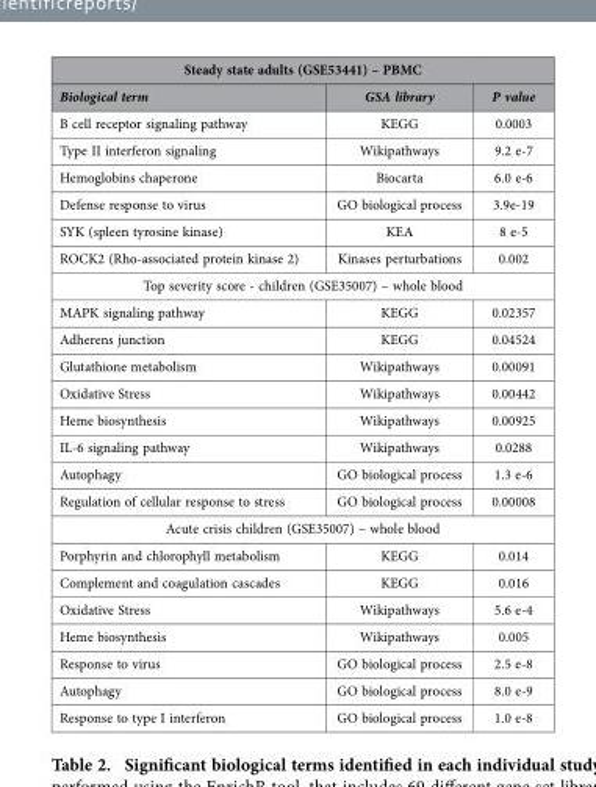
<table><thead><tr><td colspan="3">Steady state adults (GSE53441) – PBMC</td></tr><tr><td>Biological term</td><td>GSA library</td><td>P value</td></tr></thead><tbody><tr><td>B cell receptor signaling pathway</td><td>KEGG</td><td>0.0003</td></tr><tr><td>Type II interferon signaling</td><td>Wikipathways</td><td>9.2 e-7</td></tr><tr><td>Hemoglobins chaperone</td><td>Biocarta</td><td>6.0 e-6</td></tr><tr><td>Defense response to virus</td><td>GO biological process</td><td>3.9e-19</td></tr><tr><td>SYK (spleen tyrosine kinase)</td><td>KEA</td><td>8 e-5</td></tr><tr><td>ROCK2 (Rho-associated protein kinase 2)</td><td>Kinases perturbations</td><td>0.002</td></tr><tr><td colspan="3">Top severity score - children (GSE35007) – whole blood</td></tr><tr><td>MAPK signaling pathway</td><td>KEGG</td><td>0.02357</td></tr><tr><td>Adherens junction</td><td>KEGG</td><td>0.04524</td></tr><tr><td>Glutathione metabolism</td><td>Wikipathways</td><td>0.00091</td></tr><tr><td>Oxidative Stress</td><td>Wikipathways</td><td>0.00442</td></tr><tr><td>Heme biosynthesis</td><td>Wikipathways</td><td>0.00925</td></tr><tr><td>IL-6 signaling pathway</td><td>Wikipathways</td><td>0.0288</td></tr><tr><td>Autophagy</td><td>GO biological process</td><td>1.3 e-6</td></tr><tr><td>Regulation of cellular response to stress</td><td>GO biological process</td><td>0.00008</td></tr><tr><td colspan="3">Acute crisis children (GSE35007) – whole blood</td></tr><tr><td>Porphyrin and chlorophyll metabolism</td><td>KEGG</td><td>0.014</td></tr><tr><td>Complement and coagulation cascades</td><td>KEGG</td><td>0.016</td></tr><tr><td>Oxidative Stress</td><td>Wikipathways</td><td>5.6 e-4</td></tr><tr><td>Heme biosynthesis</td><td>Wikipathways</td><td>0.005</td></tr><tr><td>Response to virus</td><td>GO biological process</td><td>2.5 e-8</td></tr><tr><td>Autophagy</td><td>GO biological process</td><td>8.0 e-9</td></tr><tr><td>Response to type I interferon</td><td>GO biological process</td><td>1.0 e-8</td></tr></tbody></table>